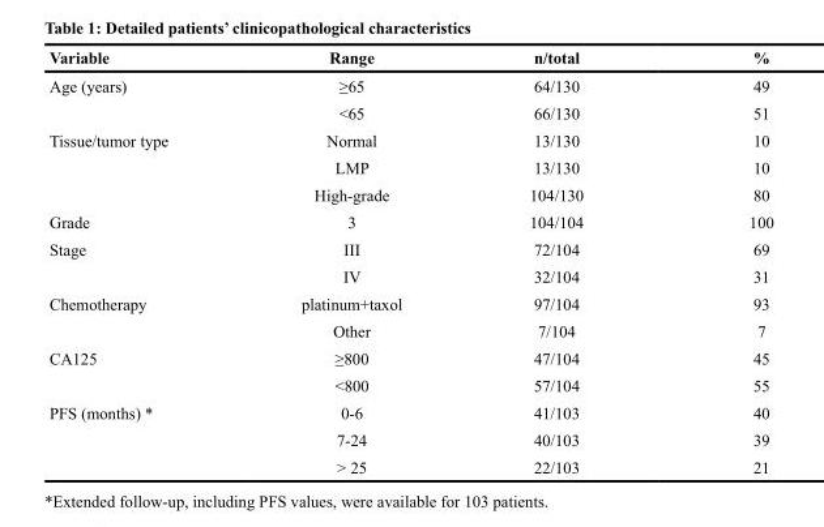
<table><thead><tr><td>Variable</td><td>Range</td><td>n/total</td><td>%</td></tr></thead><tbody><tr><td rowspan="2">Age (years)</td><td>≥65</td><td>64/130</td><td>49</td></tr><tr><td>&lt;65</td><td>66/130</td><td>51</td></tr><tr><td rowspan="3">Tissue/tumor type</td><td>Normal</td><td>13/130</td><td>10</td></tr><tr><td>LMP</td><td>13/130</td><td>10</td></tr><tr><td>High-grade</td><td>104/130</td><td>80</td></tr><tr><td>Grade</td><td>3</td><td>104/104</td><td>100</td></tr><tr><td rowspan="2">Stage</td><td>III</td><td>72/104</td><td>69</td></tr><tr><td>IV</td><td>32/104</td><td>31</td></tr><tr><td rowspan="2">Chemotherapy</td><td>platinum+taxol</td><td>97/104</td><td>93</td></tr><tr><td>Other</td><td>7/104</td><td>7</td></tr><tr><td rowspan="2">CA125</td><td>≥800</td><td>47/104</td><td>45</td></tr><tr><td>&lt;800</td><td>57/104</td><td>55</td></tr><tr><td rowspan="3">PFS (months) *</td><td>0-6</td><td>41/103</td><td>40</td></tr><tr><td>7-24</td><td>40/103</td><td>39</td></tr><tr><td>&gt; 25</td><td>22/103</td><td>21</td></tr></tbody></table>